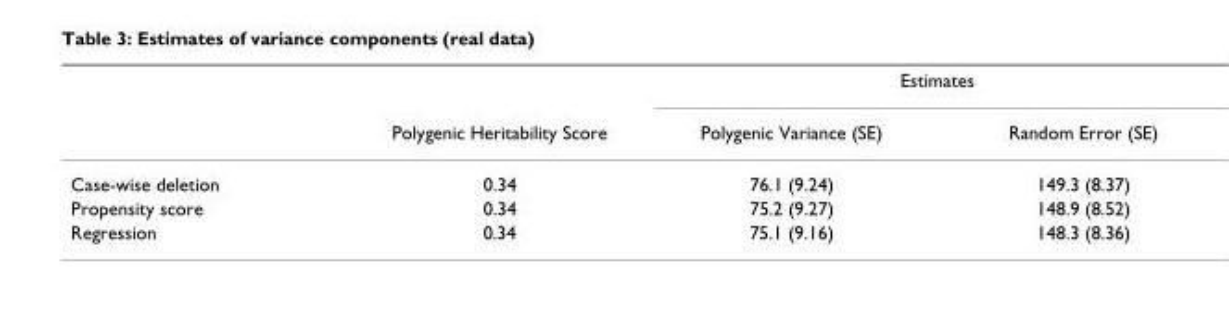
<table><thead><tr><td rowspan="2"></td><td rowspan="2">Polygenic Heritability Score</td><td colspan="2">Estimates</td></tr><tr><td>Polygenic Variance (SE)</td><td>Random Error (SE)</td></tr></thead><tbody><tr><td>Case-wise deletion</td><td>0.34</td><td>76.1 (9.24)</td><td>149.3 (8.37)</td></tr><tr><td>Propensity score</td><td>0.34</td><td>75.2 (9.27)</td><td>148.9 (8.52)</td></tr><tr><td>Regression</td><td>0.34</td><td>75.1 (9.16)</td><td>148.3 (8.36)</td></tr></tbody></table>